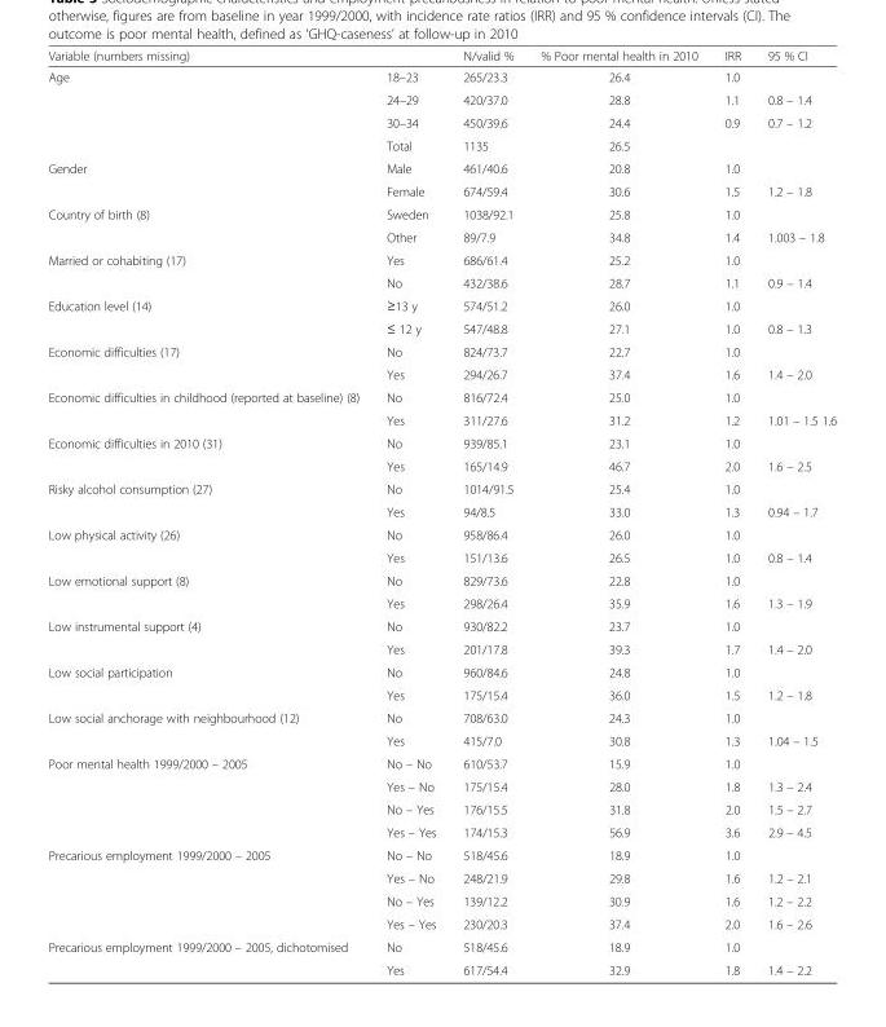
<table><thead><tr><td>Variable (numbers missing)</td><td></td><td>N/valid %</td><td>% Poor mental health in 2010</td><td>IRR</td><td>95 % CI</td></tr></thead><tbody><tr><td rowspan="4">Age</td><td>18–23</td><td>265/23.3</td><td>26.4</td><td>1.0</td><td></td></tr><tr><td>24–29</td><td>420/37.0</td><td>28.8</td><td>1.1</td><td>0.8 – 1.4</td></tr><tr><td>30–34</td><td>450/39.6</td><td>24.4</td><td>0.9</td><td>0.7 – 1.2</td></tr><tr><td>Total</td><td>1135</td><td>26.5</td><td></td><td></td></tr><tr><td rowspan="2">Gender</td><td>Male</td><td>461/40.6</td><td>20.8</td><td>1.0</td><td></td></tr><tr><td>Female</td><td>674/59.4</td><td>30.6</td><td>1.5</td><td>1.2 – 1.8</td></tr><tr><td rowspan="2">Country of birth (8)</td><td>Sweden</td><td>1038/92.1</td><td>25.8</td><td>1.0</td><td></td></tr><tr><td>Other</td><td>89/7.9</td><td>34.8</td><td>1.4</td><td>1.003 – 1.8</td></tr><tr><td rowspan="2">Married or cohabiting (17)</td><td>Yes</td><td>686/61.4</td><td>25.2</td><td>1.0</td><td></td></tr><tr><td>No</td><td>432/38.6</td><td>28.7</td><td>1.1</td><td>0.9 – 1.4</td></tr><tr><td rowspan="2">Education level (14)</td><td>≥13 y</td><td>574/51.2</td><td>26.0</td><td>1.0</td><td></td></tr><tr><td>≤ 12 y</td><td>547/48.8</td><td>27.1</td><td>1.0</td><td>0.8 – 1.3</td></tr><tr><td rowspan="2">Economic difficulties (17)</td><td>No</td><td>824/73.7</td><td>22.7</td><td>1.0</td><td></td></tr><tr><td>Yes</td><td>294/26.7</td><td>37.4</td><td>1.6</td><td>1.4 – 2.0</td></tr><tr><td rowspan="2">Economic difficulties in childhood (reported at baseline) (8)</td><td>No</td><td>816/72.4</td><td>25.0</td><td>1.0</td><td></td></tr><tr><td>Yes</td><td>311/27.6</td><td>31.2</td><td>1.2</td><td>1.01 – 1.5 1.6</td></tr><tr><td rowspan="2">Economic difficulties in 2010 (31)</td><td>No</td><td>939/85.1</td><td>23.1</td><td>1.0</td><td></td></tr><tr><td>Yes</td><td>165/14.9</td><td>46.7</td><td>2.0</td><td>1.6 – 2.5</td></tr><tr><td rowspan="2">Risky alcohol consumption (27)</td><td>No</td><td>1014/91.5</td><td>25.4</td><td>1.0</td><td></td></tr><tr><td>Yes</td><td>94/8.5</td><td>33.0</td><td>1.3</td><td>0.94 – 1.7</td></tr><tr><td rowspan="2">Low physical activity (26)</td><td>No</td><td>958/86.4</td><td>26.0</td><td>1.0</td><td></td></tr><tr><td>Yes</td><td>151/13.6</td><td>26.5</td><td>1.0</td><td>0.8 – 1.4</td></tr><tr><td rowspan="2">Low emotional support (8)</td><td>No</td><td>829/73.6</td><td>22.8</td><td>1.0</td><td></td></tr><tr><td>Yes</td><td>298/26.4</td><td>35.9</td><td>1.6</td><td>1.3 – 1.9</td></tr><tr><td rowspan="2">Low instrumental support (4)</td><td>No</td><td>930/82.2</td><td>23.7</td><td>1.0</td><td></td></tr><tr><td>Yes</td><td>201/17.8</td><td>39.3</td><td>1.7</td><td>1.4 – 2.0</td></tr><tr><td rowspan="2">Low social participation</td><td>No</td><td>960/84.6</td><td>24.8</td><td>1.0</td><td></td></tr><tr><td>Yes</td><td>175/15.4</td><td>36.0</td><td>1.5</td><td>1.2 – 1.8</td></tr><tr><td rowspan="2">Low social anchorage with neighbourhood (12)</td><td>No</td><td>708/63.0</td><td>24.3</td><td>1.0</td><td></td></tr><tr><td>Yes</td><td>415/7.0</td><td>30.8</td><td>1.3</td><td>1.04 – 1.5</td></tr><tr><td rowspan="4">Poor mental health 1999/2000 – 2005</td><td>No – No</td><td>610/53.7</td><td>15.9</td><td>1.0</td><td></td></tr><tr><td>Yes – No</td><td>175/15.4</td><td>28.0</td><td>1.8</td><td>1.3 – 2.4</td></tr><tr><td>No – Yes</td><td>176/15.5</td><td>31.8</td><td>2.0</td><td>1.5 – 2.7</td></tr><tr><td>Yes – Yes</td><td>174/15.3</td><td>56.9</td><td>3.6</td><td>2.9 – 4.5</td></tr><tr><td rowspan="4">Precarious employment 1999/2000 – 2005</td><td>No – No</td><td>518/45.6</td><td>18.9</td><td>1.0</td><td></td></tr><tr><td>Yes – No</td><td>248/21.9</td><td>29.8</td><td>1.6</td><td>1.2 – 2.1</td></tr><tr><td>No – Yes</td><td>139/12.2</td><td>30.9</td><td>1.6</td><td>1.2 – 2.2</td></tr><tr><td>Yes – Yes</td><td>230/20.3</td><td>37.4</td><td>2.0</td><td>1.6 – 2.6</td></tr><tr><td rowspan="2">Precarious employment 1999/2000 – 2005, dichotomised</td><td>No</td><td>518/45.6</td><td>18.9</td><td>1.0</td><td></td></tr><tr><td>Yes</td><td>617/54.4</td><td>32.9</td><td>1.8</td><td>1.4 – 2.2</td></tr></tbody></table>